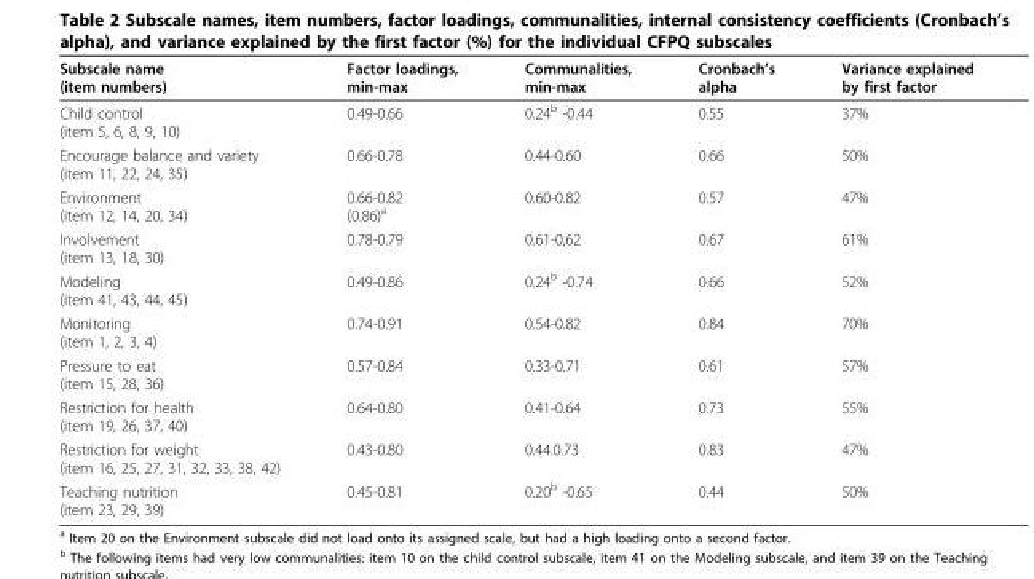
<table><thead><tr><td>Subscale name (item numbers)</td><td>Factor loadings, min-max</td><td>Communalities, min-max</td><td>Cronbach’s alpha</td><td>Variance explained by first factor</td></tr></thead><tbody><tr><td>Child control (item 5, 6, 8, 9, 10)</td><td>0.49-0.66</td><td>0.24<sup>b</sup> -0.44</td><td>0.55</td><td>37%</td></tr><tr><td>Encourage balance and variety (item 11, 22, 24, 35)</td><td>0.66-0.78</td><td>0.44-0.60</td><td>0.66</td><td>50%</td></tr><tr><td>Environment (item 12, 14, 20, 34)</td><td>0.66-0.82 (0.86)<sup>a</sup></td><td>0.60-0.82</td><td>0.57</td><td>47%</td></tr><tr><td>Involvement (item 13, 18, 30)</td><td>0.78-0.79</td><td>0.61-0,62</td><td>0.67</td><td>61%</td></tr><tr><td>Modeling (item 41, 43, 44, 45)</td><td>0.49-0.86</td><td>0.24<sup>b</sup> -0.74</td><td>0.66</td><td>52%</td></tr><tr><td>Monitoring (item 1, 2, 3, 4)</td><td>0.74-0.91</td><td>0.54-0.82</td><td>0.84</td><td>70%</td></tr><tr><td>Pressure to eat (item 15, 28, 36)</td><td>0.57-0.84</td><td>0.33-0.71</td><td>0.61</td><td>57%</td></tr><tr><td>Restriction for health (item 19, 26, 37, 40)</td><td>0.64-0.80</td><td>0.41-0.64</td><td>0.73</td><td>55%</td></tr><tr><td>Restriction for weight (item 16, 25, 27, 31, 32, 33, 38, 42)</td><td>0.43-0.80</td><td>0.44.0.73</td><td>0.83</td><td>47%</td></tr><tr><td>Teaching nutrition (item 23, 29, 39)</td><td>0.45-0.81</td><td>0.20<sup>b</sup> -0.65</td><td>0.44</td><td>50%</td></tr></tbody></table>